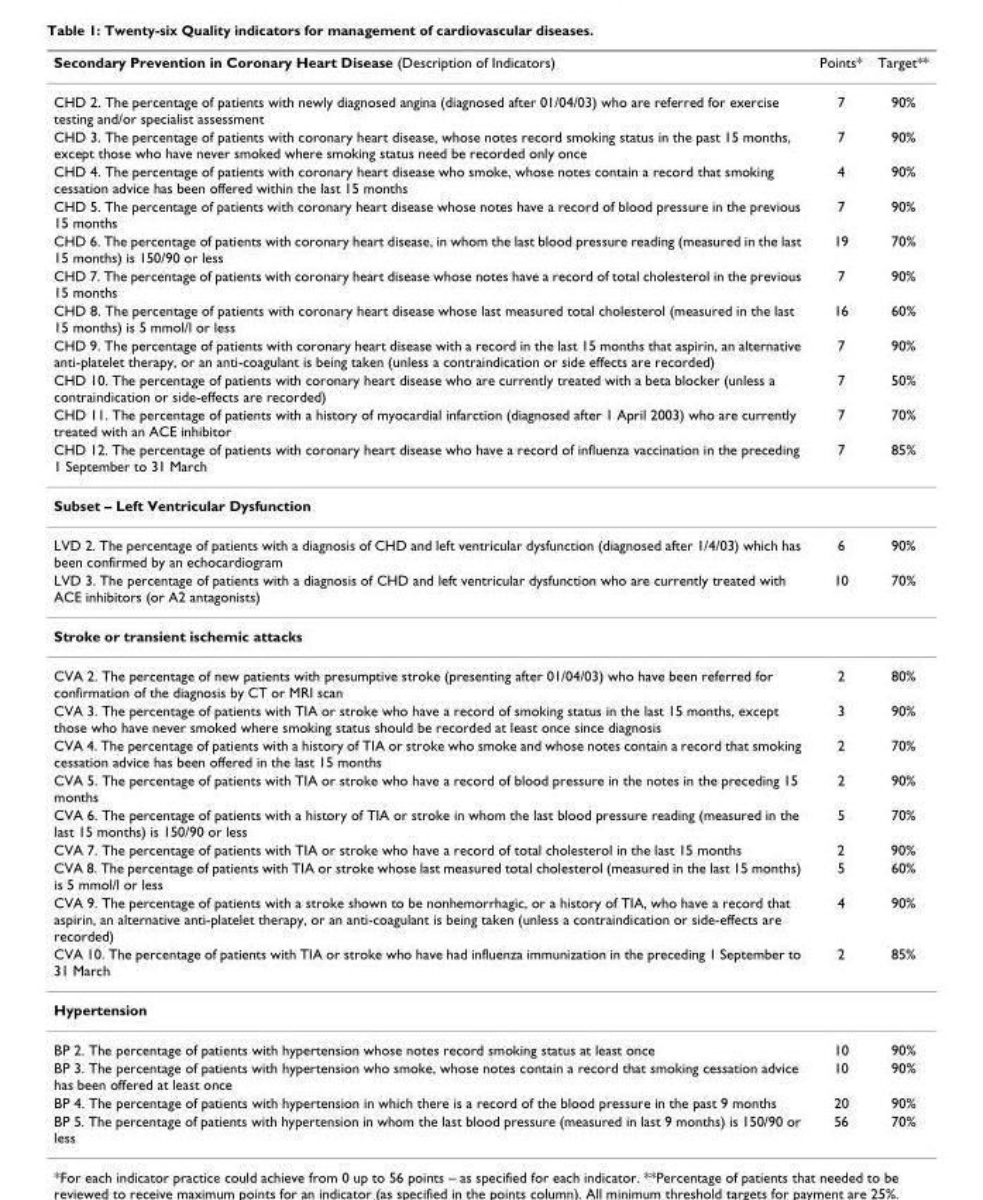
<table><thead><tr><td>Secondary Prevention in Coronary Heart Disease (Description of Indicators)</td><td>Points*</td><td>Target**</td></tr></thead><tbody><tr><td>CHD 2. The percentage of patients with newly diagnosed angina (diagnosed after 01/04/03) who are referred for exercise testing and/or specialist assessment</td><td>7</td><td>90%</td></tr><tr><td>CHD 3. The percentage of patients with coronary heart disease, whose notes record smoking status in the past 15 months, except those who have never smoked where smoking status need be recorded only once</td><td>7</td><td>90%</td></tr><tr><td>CHD 4. The percentage of patients with coronary heart disease who smoke, whose notes contain a record that smoking cessation advice has been offered within the last 15 months</td><td>4</td><td>90%</td></tr><tr><td>CHD 5. The percentage of patients with coronary heart disease whose notes have a record of blood pressure in the previous 15 months</td><td>7</td><td>90%</td></tr><tr><td>CHD 6. The percentage of patients with coronary heart disease, in whom the last blood pressure reading (measured in the last 15 months) is 150/90 or less</td><td>19</td><td>70%</td></tr><tr><td>CHD 7. The percentage of patients with coronary heart disease whose notes have a record of total cholesterol in the previous 15 months</td><td>7</td><td>90%</td></tr><tr><td>CHD 8. The percentage of patients with coronary heart disease whose last measured total cholesterol (measured in the last 15 months) is 5 mmol/l or less</td><td>16</td><td>60%</td></tr><tr><td>CHD 9. The percentage of patients with coronary heart disease with a record in the last 15 months that aspirin, an alternative anti-platelet therapy, or an anti-coagulant is being taken (unless a contraindication or side effects are recorded)</td><td>7</td><td>90%</td></tr><tr><td>CHD 10. The percentage of patients with coronary heart disease who are currently treated with a beta blocker (unless a contraindication or side-effects are recorded)</td><td>7</td><td>50%</td></tr><tr><td>CHD 11. The percentage of patients with a history of myocardial infarction (diagnosed after 1 April 2003) who are currently treated with an ACE inhibitor</td><td>7</td><td>70%</td></tr><tr><td>CHD 12. The percentage of patients with coronary heart disease who have a record of influenza vaccination in the preceding 1 September to 31 March</td><td>7</td><td>85%</td></tr><tr><td colspan="3">Subset – Left Ventricular Dysfunction</td></tr><tr><td>LVD 2. The percentage of patients with a diagnosis of CHD and left ventricular dysfunction (diagnosed after 1/4/03) which has been confirmed by an echocardiogram</td><td>6</td><td>90%</td></tr><tr><td>LVD 3. The percentage of patients with a diagnosis of CHD and left ventricular dysfunction who are currently treated with ACE inhibitors (or A2 antagonists)</td><td>10</td><td>70%</td></tr><tr><td colspan="3">Stroke or transient ischemic attacks</td></tr><tr><td>CVA 2. The percentage of new patients with presumptive stroke (presenting after 01/04/03) who have been referred for confirmation of the diagnosis by CT or MRI scan</td><td>2</td><td>80%</td></tr><tr><td>CVA 3. The percentage of patients with TIA or stroke who have a record of smoking status in the last 15 months, except those who have never smoked where smoking status should be recorded at least once since diagnosis</td><td>3</td><td>90%</td></tr><tr><td>CVA 4. The percentage of patients with a history of TIA or stroke who smoke and whose notes contain a record that smoking cessation advice has been offered in the last 15 months</td><td>2</td><td>70%</td></tr><tr><td>CVA 5. The percentage of patients with TIA or stroke who have a record of blood pressure in the notes in the preceding 15 months</td><td>2</td><td>90%</td></tr><tr><td>CVA 6. The percentage of patients with a history of TIA or stroke in whom the last blood pressure reading (measured in the last 15 months) is 150/90 or less</td><td>5</td><td>70%</td></tr><tr><td>CVA 7. The percentage of patients with TIA or stroke who have a record of total cholesterol in the last 15 months</td><td>2</td><td>90%</td></tr><tr><td>CVA 8. The percentage of patients with TIA or stroke whose last measured total cholesterol (measured in the last 15 months) is 5 mmol/l or less</td><td>5</td><td>60%</td></tr><tr><td>CVA 9. The percentage of patients with a stroke shown to be nonhemorrhagic, or a history of TIA, who have a record that aspirin, an alternative anti-platelet therapy, or an anti-coagulant is being taken (unless a contraindication or side-effects are recorded)</td><td>4</td><td>90%</td></tr><tr><td>CVA 10. The percentage of patients with TIA or stroke who have had influenza immunization in the preceding 1 September to 31 March</td><td>2</td><td>85%</td></tr><tr><td colspan="3">Hypertension</td></tr><tr><td>BP 2. The percentage of patients with hypertension whose notes record smoking status at least once</td><td>10</td><td>90%</td></tr><tr><td>BP 3. The percentage of patients with hypertension who smoke, whose notes contain a record that smoking cessation advice has been offered at least once</td><td>10</td><td>90%</td></tr><tr><td>BP 4. The percentage of patients with hypertension in which there is a record of the blood pressure in the past 9 months</td><td>20</td><td>90%</td></tr><tr><td>BP 5. The percentage of patients with hypertension in whom the last blood pressure (measured in last 9 months) is 150/90 or less</td><td>56</td><td>70%</td></tr></tbody></table>